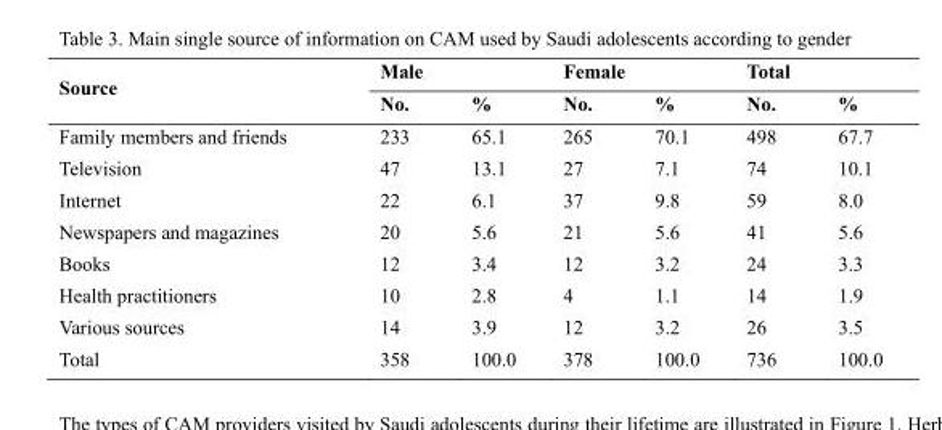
<table><thead><tr><td rowspan="2">Source</td><td colspan="2">Male</td><td colspan="2">Female</td><td colspan="2">Total</td></tr><tr><td>No.</td><td>%</td><td>No.</td><td>%</td><td>No.</td><td>%</td></tr></thead><tbody><tr><td>Family members and friends</td><td>233</td><td>65.1</td><td>265</td><td>70.1</td><td>498</td><td>67.7</td></tr><tr><td>Television</td><td>47</td><td>13.1</td><td>27</td><td>7.1</td><td>74</td><td>10.1</td></tr><tr><td>Internet</td><td>22</td><td>6.1</td><td>37</td><td>9.8</td><td>59</td><td>8.0</td></tr><tr><td>Newspapers and magazines</td><td>20</td><td>5.6</td><td>21</td><td>5.6</td><td>41</td><td>5.6</td></tr><tr><td>Books</td><td>12</td><td>3.4</td><td>12</td><td>3.2</td><td>24</td><td>3.3</td></tr><tr><td>Health practitioners</td><td>10</td><td>2.8</td><td>4</td><td>1.1</td><td>14</td><td>1.9</td></tr><tr><td>Various sources</td><td>14</td><td>3.9</td><td>12</td><td>3.2</td><td>26</td><td>3.5</td></tr><tr><td>Total</td><td>358</td><td>100.0</td><td>378</td><td>100.0</td><td>736</td><td>100.0</td></tr></tbody></table>